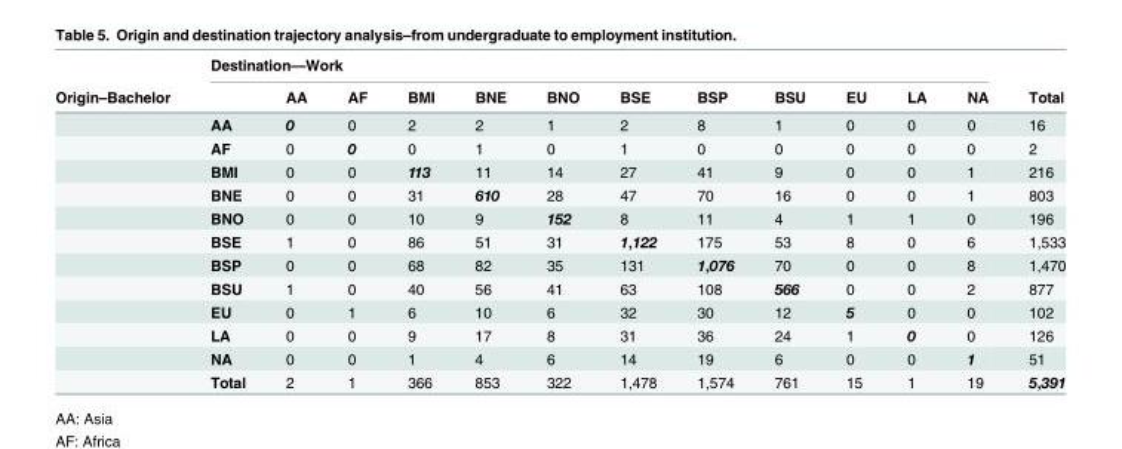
<table><thead><tr><td rowspan="2">Origin–Bachelor</td><td colspan="12">Destination—Work</td><td rowspan="2">Total</td></tr><tr><td></td><td>AA</td><td>AF</td><td>BMI</td><td>BNE</td><td>BNO</td><td>BSE</td><td>BSP</td><td>BSU</td><td>EU</td><td>LA</td><td>NA</td></tr></thead><tbody><tr><td></td><td>AA</td><td>0</td><td>0</td><td>2</td><td>2</td><td>1</td><td>2</td><td>8</td><td>1</td><td>0</td><td>0</td><td>0</td><td>16</td></tr><tr><td></td><td>AF</td><td>0</td><td>0</td><td>0</td><td>1</td><td>0</td><td>1</td><td>0</td><td>0</td><td>0</td><td>0</td><td>0</td><td>2</td></tr><tr><td></td><td>BMI</td><td>0</td><td>0</td><td>113</td><td>11</td><td>14</td><td>27</td><td>41</td><td>9</td><td>0</td><td>0</td><td>1</td><td>216</td></tr><tr><td></td><td>BNE</td><td>0</td><td>0</td><td>31</td><td>610</td><td>28</td><td>47</td><td>70</td><td>16</td><td>0</td><td>0</td><td>1</td><td>803</td></tr><tr><td></td><td>BNO</td><td>0</td><td>0</td><td>10</td><td>9</td><td>152</td><td>8</td><td>11</td><td>4</td><td>1</td><td>1</td><td>0</td><td>196</td></tr><tr><td></td><td>BSE</td><td>1</td><td>0</td><td>86</td><td>51</td><td>31</td><td>1,122</td><td>175</td><td>53</td><td>8</td><td>0</td><td>6</td><td>1,533</td></tr><tr><td></td><td>BSP</td><td>0</td><td>0</td><td>68</td><td>82</td><td>35</td><td>131</td><td>1,076</td><td>70</td><td>0</td><td>0</td><td>8</td><td>1,470</td></tr><tr><td></td><td>BSU</td><td>1</td><td>0</td><td>40</td><td>56</td><td>41</td><td>63</td><td>108</td><td>566</td><td>0</td><td>0</td><td>2</td><td>877</td></tr><tr><td></td><td>EU</td><td>0</td><td>1</td><td>6</td><td>10</td><td>6</td><td>32</td><td>30</td><td>12</td><td>5</td><td>0</td><td>0</td><td>102</td></tr><tr><td></td><td>LA</td><td>0</td><td>0</td><td>9</td><td>17</td><td>8</td><td>31</td><td>36</td><td>24</td><td>1</td><td>0</td><td>0</td><td>126</td></tr><tr><td></td><td>NA</td><td>0</td><td>0</td><td>1</td><td>4</td><td>6</td><td>14</td><td>19</td><td>6</td><td>0</td><td>0</td><td>1</td><td>51</td></tr><tr><td></td><td>Total</td><td>2</td><td>1</td><td>366</td><td>853</td><td>322</td><td>1,478</td><td>1,574</td><td>761</td><td>15</td><td>1</td><td>19</td><td>5,391</td></tr></tbody></table>